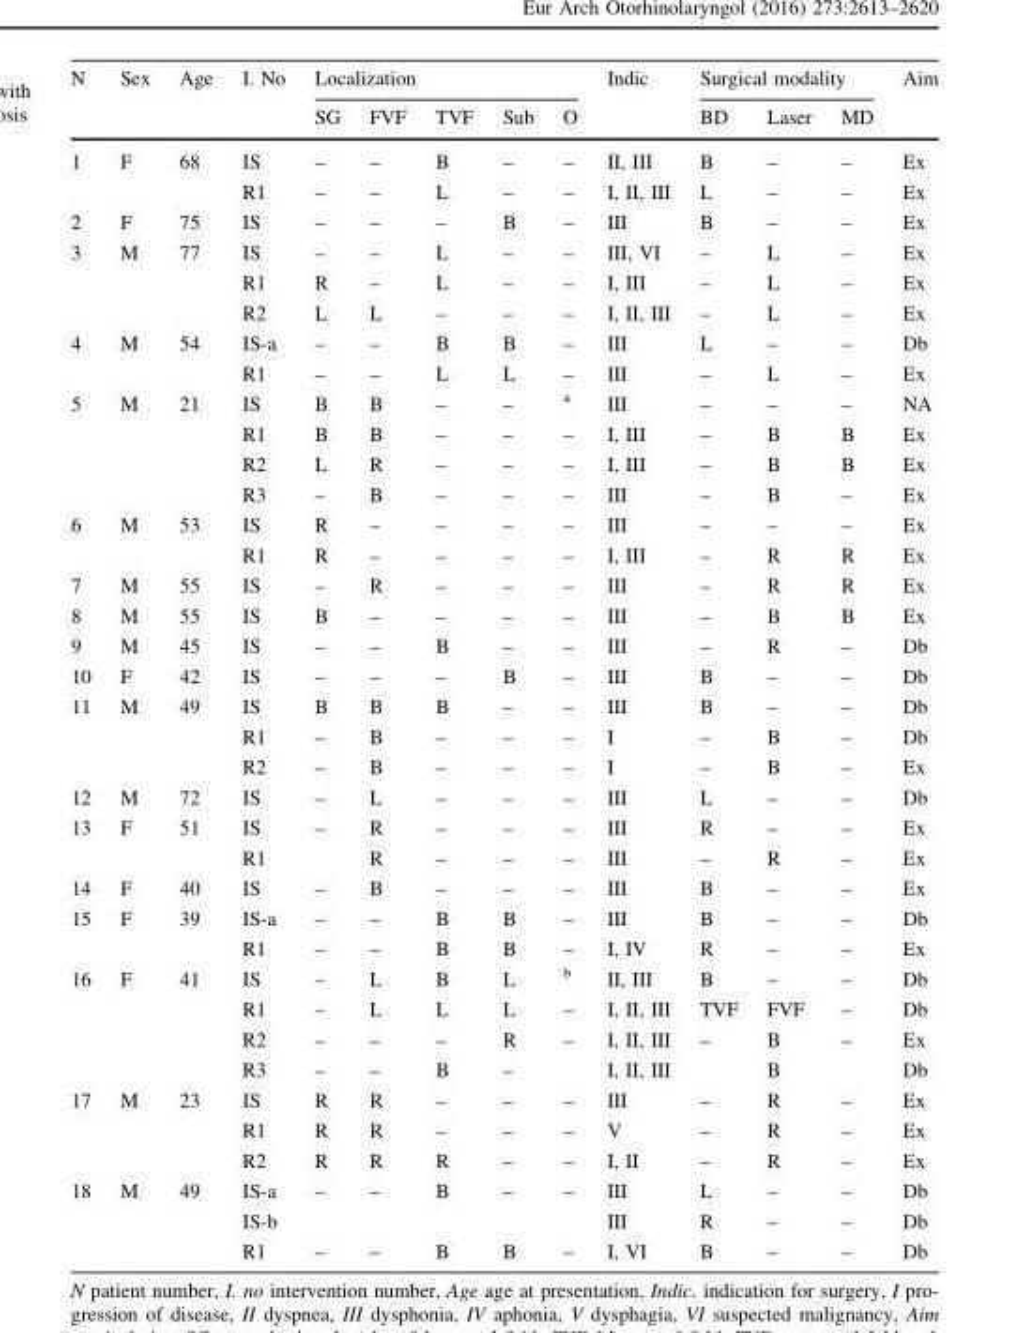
<table><thead><tr><td rowspan="2">N</td><td rowspan="2">Sex</td><td rowspan="2">Age</td><td rowspan="2">I. No</td><td colspan="5">Localization</td><td rowspan="2">Indic</td><td colspan="3">Surgical modality</td><td rowspan="2">Aim</td></tr><tr><td>SG</td><td>FVF</td><td>TVF</td><td>Sub</td><td>O</td><td>BD</td><td>Laser</td><td>MD</td></tr></thead><tbody><tr><td rowspan="2">1</td><td rowspan="2">F</td><td rowspan="2">68</td><td>IS</td><td>–</td><td>–</td><td>B</td><td>–</td><td>–</td><td>II, III</td><td>B</td><td>–</td><td>–</td><td>Ex</td></tr><tr><td>R1</td><td>–</td><td>–</td><td>L</td><td>–</td><td>–</td><td>I, II, III</td><td>L</td><td>–</td><td>–</td><td>Ex</td></tr><tr><td>2</td><td>F</td><td>75</td><td>IS</td><td>–</td><td>–</td><td>–</td><td>B</td><td>–</td><td>III</td><td>B</td><td>–</td><td>–</td><td>Ex</td></tr><tr><td rowspan="3">3</td><td rowspan="3">M</td><td rowspan="3">77</td><td>IS</td><td>–</td><td>–</td><td>L</td><td>–</td><td>–</td><td>III, VI</td><td>–</td><td>L</td><td>–</td><td>Ex</td></tr><tr><td>R1</td><td>R</td><td>–</td><td>L</td><td>–</td><td>–</td><td>I, III</td><td>–</td><td>L</td><td>–</td><td>Ex</td></tr><tr><td>R2</td><td>L</td><td>L</td><td>–</td><td>–</td><td>–</td><td>I, II, III</td><td>–</td><td>L</td><td>–</td><td>Ex</td></tr><tr><td rowspan="2">4</td><td rowspan="2">M</td><td rowspan="2">54</td><td>IS-a</td><td>–</td><td>–</td><td>B</td><td>B</td><td>–</td><td>III</td><td>L</td><td>–</td><td>–</td><td>Db</td></tr><tr><td>R1</td><td>–</td><td>–</td><td>L</td><td>L</td><td>–</td><td>III</td><td>–</td><td>L</td><td>–</td><td>Ex</td></tr><tr><td rowspan="4">5</td><td rowspan="4">M</td><td rowspan="4">21</td><td>IS</td><td>B</td><td>B</td><td>–</td><td>–</td><td><sup>a</sup></td><td>III</td><td>–</td><td>–</td><td>–</td><td>NA</td></tr><tr><td>R1</td><td>B</td><td>B</td><td>–</td><td>–</td><td>–</td><td>I, III</td><td>–</td><td>B</td><td>B</td><td>Ex</td></tr><tr><td>R2</td><td>L</td><td>R</td><td>–</td><td>–</td><td>–</td><td>I, III</td><td>–</td><td>B</td><td>B</td><td>Ex</td></tr><tr><td>R3</td><td>–</td><td>B</td><td>–</td><td>–</td><td>–</td><td>III</td><td>–</td><td>B</td><td>–</td><td>Ex</td></tr><tr><td rowspan="2">6</td><td rowspan="2">M</td><td rowspan="2">53</td><td>IS</td><td>R</td><td>–</td><td>–</td><td>–</td><td>–</td><td>III</td><td>–</td><td>–</td><td>–</td><td>Ex</td></tr><tr><td>R1</td><td>R</td><td>–</td><td>–</td><td>–</td><td>–</td><td>I, III</td><td>–</td><td>R</td><td>R</td><td>Ex</td></tr><tr><td>7</td><td>M</td><td>55</td><td>IS</td><td>–</td><td>R</td><td>–</td><td>–</td><td>–</td><td>III</td><td>–</td><td>R</td><td>R</td><td>Ex</td></tr><tr><td>8</td><td>M</td><td>55</td><td>IS</td><td>B</td><td>–</td><td>–</td><td>–</td><td>–</td><td>III</td><td>–</td><td>B</td><td>B</td><td>Ex</td></tr><tr><td>9</td><td>M</td><td>45</td><td>IS</td><td>–</td><td>–</td><td>B</td><td>–</td><td>–</td><td>III</td><td>–</td><td>R</td><td>–</td><td>Db</td></tr><tr><td>10</td><td>F</td><td>42</td><td>IS</td><td>–</td><td>–</td><td>–</td><td>B</td><td>–</td><td>III</td><td>B</td><td>–</td><td>–</td><td>Db</td></tr><tr><td rowspan="3">11</td><td rowspan="3">M</td><td rowspan="3">49</td><td>IS</td><td>B</td><td>B</td><td>B</td><td>–</td><td>–</td><td>III</td><td>B</td><td>–</td><td>–</td><td>Db</td></tr><tr><td>R1</td><td>–</td><td>B</td><td>–</td><td>–</td><td>–</td><td>I</td><td>–</td><td>B</td><td>–</td><td>Db</td></tr><tr><td>R2</td><td>–</td><td>B</td><td>–</td><td>–</td><td>–</td><td>I</td><td>–</td><td>B</td><td>–</td><td>Ex</td></tr><tr><td>12</td><td>M</td><td>72</td><td>IS</td><td>–</td><td>L</td><td>–</td><td>–</td><td>–</td><td>III</td><td>L</td><td>–</td><td>–</td><td>Db</td></tr><tr><td rowspan="2">13</td><td rowspan="2">F</td><td rowspan="2">51</td><td>IS</td><td>–</td><td>R</td><td>–</td><td>–</td><td>–</td><td>III</td><td>R</td><td>–</td><td>–</td><td>Ex</td></tr><tr><td>R1</td><td></td><td>R</td><td>–</td><td>–</td><td>–</td><td>III</td><td>–</td><td>R</td><td>–</td><td>Ex</td></tr><tr><td>14</td><td>F</td><td>40</td><td>IS</td><td>–</td><td>B</td><td>–</td><td>–</td><td>–</td><td>III</td><td>B</td><td>–</td><td>–</td><td>Ex</td></tr><tr><td rowspan="2">15</td><td rowspan="2">F</td><td rowspan="2">39</td><td>IS-a</td><td>–</td><td>–</td><td>B</td><td>B</td><td>–</td><td>III</td><td>B</td><td>–</td><td>–</td><td>Db</td></tr><tr><td>R1</td><td>–</td><td>–</td><td>B</td><td>B</td><td>–</td><td>I, IV</td><td>R</td><td>–</td><td>–</td><td>Ex</td></tr><tr><td rowspan="4">16</td><td rowspan="4">F</td><td rowspan="4">41</td><td>IS</td><td>–</td><td>L</td><td>B</td><td>L</td><td><sup>b</sup></td><td>II, III</td><td>B</td><td>–</td><td>–</td><td>Db</td></tr><tr><td>R1</td><td>–</td><td>L</td><td>L</td><td>L</td><td>–</td><td>I, II, III</td><td>TVF</td><td>FVF</td><td>–</td><td>Db</td></tr><tr><td>R2</td><td>–</td><td>–</td><td>–</td><td>R</td><td>–</td><td>I, II, III</td><td>–</td><td>B</td><td>–</td><td>Ex</td></tr><tr><td>R3</td><td>–</td><td>–</td><td>B</td><td>–</td><td></td><td>I, II, III</td><td></td><td>B</td><td></td><td>Db</td></tr><tr><td rowspan="3">17</td><td rowspan="3">M</td><td rowspan="3">23</td><td>IS</td><td>R</td><td>R</td><td>–</td><td>–</td><td>–</td><td>III</td><td>–</td><td>R</td><td>–</td><td>Ex</td></tr><tr><td>R1</td><td>R</td><td>R</td><td>–</td><td>–</td><td>–</td><td>V</td><td>–</td><td>R</td><td>–</td><td>Ex</td></tr><tr><td>R2</td><td>R</td><td>R</td><td>R</td><td>–</td><td>–</td><td>I, II</td><td>–</td><td>R</td><td>–</td><td>Ex</td></tr><tr><td rowspan="3">18</td><td rowspan="3">M</td><td rowspan="3">49</td><td>IS-a</td><td>–</td><td>–</td><td>B</td><td>–</td><td>–</td><td>III</td><td>L</td><td>–</td><td>–</td><td>Db</td></tr><tr><td>IS-b</td><td></td><td></td><td></td><td></td><td></td><td>III</td><td>R</td><td>–</td><td>–</td><td>Db</td></tr><tr><td>R1</td><td>–</td><td>–</td><td>B</td><td>B</td><td>–</td><td>I, VI</td><td>B</td><td>–</td><td>–</td><td>Db</td></tr></tbody></table>